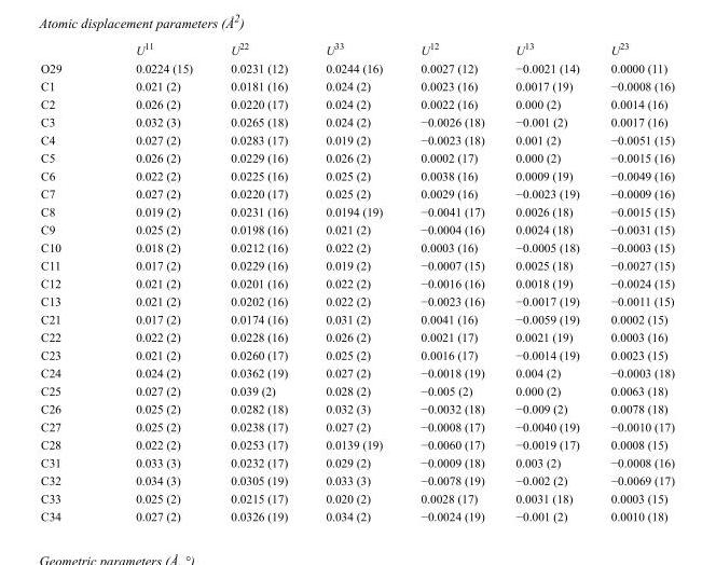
<table><thead><tr><td></td><td>U<sup>11</sup></td><td>U<sup>22</sup></td><td>U<sup>33</sup></td><td>U<sup>12</sup></td><td>U<sup>13</sup></td><td>U<sup>23</sup></td></tr></thead><tbody><tr><td>O29</td><td>0.0224 (15)</td><td>0.0231 (12)</td><td>0.0244 (16)</td><td>0.0027 (12)</td><td>−0.0021 (14)</td><td>0.0000 (11)</td></tr><tr><td>C1</td><td>0.021 (2)</td><td>0.0181 (16)</td><td>0.024 (2)</td><td>0.0023 (16)</td><td>0.0017 (19)</td><td>−0.0008 (16)</td></tr><tr><td>C2</td><td>0.026 (2)</td><td>0.0220 (17)</td><td>0.024 (2)</td><td>0.0022 (16)</td><td>0.000 (2)</td><td>0.0014 (16)</td></tr><tr><td>C3</td><td>0.032 (3)</td><td>0.0265 (18)</td><td>0.024 (2)</td><td>−0.0026 (18)</td><td>−0.001 (2)</td><td>0.0017 (16)</td></tr><tr><td>C4</td><td>0.027 (2)</td><td>0.0283 (17)</td><td>0.019 (2)</td><td>−0.0023 (18)</td><td>0.001 (2)</td><td>−0.0051 (15)</td></tr><tr><td>C5</td><td>0.026 (2)</td><td>0.0229 (16)</td><td>0.026 (2)</td><td>0.0002 (17)</td><td>0.000 (2)</td><td>−0.0015 (16)</td></tr><tr><td>C6</td><td>0.022 (2)</td><td>0.0225 (16)</td><td>0.025 (2)</td><td>0.0038 (16)</td><td>0.0009 (19)</td><td>−0.0049 (16)</td></tr><tr><td>C7</td><td>0.027 (2)</td><td>0.0220 (17)</td><td>0.025 (2)</td><td>0.0029 (16)</td><td>−0.0023 (19)</td><td>−0.0009 (16)</td></tr><tr><td>C8</td><td>0.019 (2)</td><td>0.0231 (16)</td><td>0.0194 (19)</td><td>−0.0041 (17)</td><td>0.0026 (18)</td><td>−0.0015 (15)</td></tr><tr><td>C9</td><td>0.025 (2)</td><td>0.0198 (16)</td><td>0.021 (2)</td><td>−0.0004 (16)</td><td>0.0024 (18)</td><td>−0.0031 (15)</td></tr><tr><td>C10</td><td>0.018 (2)</td><td>0.0212 (16)</td><td>0.022 (2)</td><td>0.0003 (16)</td><td>−0.0005 (18)</td><td>−0.0003 (15)</td></tr><tr><td>C11</td><td>0.017 (2)</td><td>0.0229 (16)</td><td>0.019 (2)</td><td>−0.0007 (15)</td><td>0.0025 (18)</td><td>−0.0027 (15)</td></tr><tr><td>C12</td><td>0.021 (2)</td><td>0.0201 (16)</td><td>0.022 (2)</td><td>−0.0016 (16)</td><td>0.0018 (19)</td><td>−0.0024 (15)</td></tr><tr><td>C13</td><td>0.021 (2)</td><td>0.0202 (16)</td><td>0.022 (2)</td><td>−0.0023 (16)</td><td>−0.0017 (19)</td><td>−0.0011 (15)</td></tr><tr><td>C21</td><td>0.017 (2)</td><td>0.0174 (16)</td><td>0.031 (2)</td><td>0.0041 (16)</td><td>−0.0059 (19)</td><td>0.0002 (15)</td></tr><tr><td>C22</td><td>0.022 (2)</td><td>0.0228 (16)</td><td>0.026 (2)</td><td>0.0021 (17)</td><td>0.0021 (19)</td><td>0.0003 (16)</td></tr><tr><td>C23</td><td>0.021 (2)</td><td>0.0260 (17)</td><td>0.025 (2)</td><td>0.0016 (17)</td><td>−0.0014 (19)</td><td>0.0023 (15)</td></tr><tr><td>C24</td><td>0.024 (2)</td><td>0.0362 (19)</td><td>0.027 (2)</td><td>−0.0018 (19)</td><td>0.004 (2)</td><td>−0.0003 (18)</td></tr><tr><td>C25</td><td>0.027 (2)</td><td>0.039 (2)</td><td>0.028 (2)</td><td>−0.005 (2)</td><td>0.000 (2)</td><td>0.0063 (18)</td></tr><tr><td>C26</td><td>0.025 (2)</td><td>0.0282 (18)</td><td>0.032 (3)</td><td>−0.0032 (18)</td><td>−0.009 (2)</td><td>0.0078 (18)</td></tr><tr><td>C27</td><td>0.025 (2)</td><td>0.0238 (17)</td><td>0.027 (2)</td><td>−0.0008 (17)</td><td>−0.0040 (19)</td><td>−0.0010 (17)</td></tr><tr><td>C28</td><td>0.022 (2)</td><td>0.0253 (17)</td><td>0.0139 (19)</td><td>−0.0060 (17)</td><td>−0.0019 (17)</td><td>0.0008 (15)</td></tr><tr><td>C31</td><td>0.033 (3)</td><td>0.0232 (17)</td><td>0.029 (2)</td><td>−0.0009 (18)</td><td>0.003 (2)</td><td>−0.0008 (16)</td></tr><tr><td>C32</td><td>0.034 (3)</td><td>0.0305 (19)</td><td>0.033 (3)</td><td>−0.0078 (19)</td><td>−0.002 (2)</td><td>−0.0069 (17)</td></tr><tr><td>C33</td><td>0.025 (2)</td><td>0.0215 (17)</td><td>0.020 (2)</td><td>0.0028 (17)</td><td>0.0031 (18)</td><td>0.0003 (15)</td></tr><tr><td>C34</td><td>0.027 (2)</td><td>0.0326 (19)</td><td>0.034 (2)</td><td>−0.0024 (19)</td><td>−0.001 (2)</td><td>0.0010 (18)</td></tr></tbody></table>